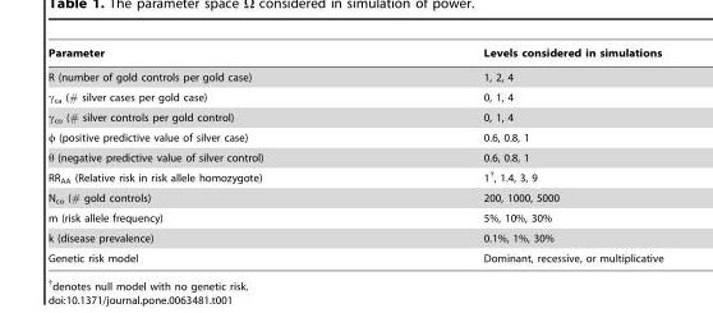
<table><thead><tr><td>Parameter</td><td>Levels considered in simulations</td></tr></thead><tbody><tr><td>R (number of gold controls per gold case)</td><td>1, 2, 4</td></tr><tr><td>γ<sub>ca</sub> (# silver cases per gold case)</td><td>0, 1, 4</td></tr><tr><td>γ<sub>co</sub> (# silver controls per gold control)</td><td>0, 1, 4</td></tr><tr><td>φ (positive predictive value of silver case)</td><td>0.6, 0.8, 1</td></tr><tr><td>θ (negative predictive value of silver control)</td><td>0.6, 0.8, 1</td></tr><tr><td>RR<sub>AA</sub> (Relative risk in risk allele homozygote)</td><td>1†, 1.4, 3, 9</td></tr><tr><td>N<sub>co</sub> (# gold controls)</td><td>200, 1000, 5000</td></tr><tr><td>m (risk allele frequency)</td><td>5%, 10%, 30%</td></tr><tr><td>k (disease prevalence)</td><td>0.1%, 1%, 30%</td></tr><tr><td>Genetic risk model</td><td>Dominant, recessive, or multiplicative</td></tr></tbody></table>